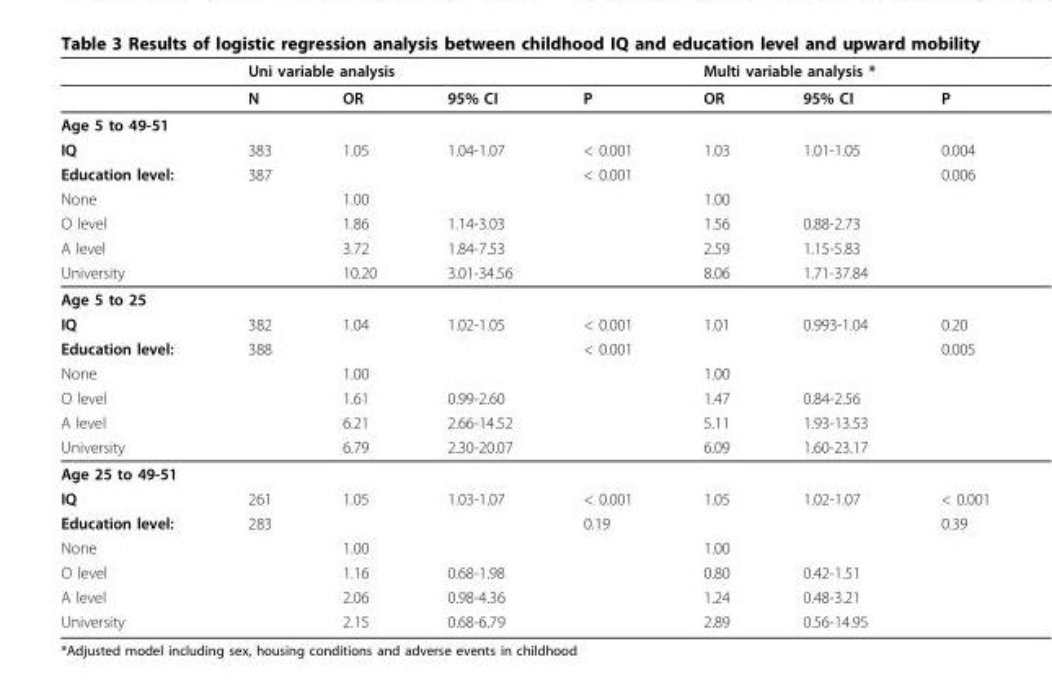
<table><thead><tr><td rowspan="2"></td><td colspan="3">Uni variable analysis</td><td rowspan="2">P</td><td colspan="3">Multi variable analysis *</td></tr><tr><td>N</td><td>OR</td><td>95% CI</td><td>OR</td><td>95% CI</td><td>P</td></tr></thead><tbody><tr><td colspan="8">Age 5 to 49-51</td></tr><tr><td>IQ</td><td>383</td><td>1.05</td><td>1.04-1.07</td><td>&lt; 0.001</td><td>1.03</td><td>1.01-1.05</td><td>0.004</td></tr><tr><td>Education level:</td><td>387</td><td></td><td></td><td>&lt; 0.001</td><td></td><td></td><td>0.006</td></tr><tr><td>None</td><td></td><td>1.00</td><td></td><td></td><td>1.00</td><td></td><td></td></tr><tr><td>O level</td><td></td><td>1.86</td><td>1.14-3.03</td><td></td><td>1.56</td><td>0.88-2.73</td><td></td></tr><tr><td>A level</td><td></td><td>3.72</td><td>1.84-7.53</td><td></td><td>2.59</td><td>1.15-5.83</td><td></td></tr><tr><td>University</td><td></td><td>10.20</td><td>3.01-34.56</td><td></td><td>8.06</td><td>1.71-37.84</td><td></td></tr><tr><td colspan="8">Age 5 to 25</td></tr><tr><td>IQ</td><td>382</td><td>1.04</td><td>1.02-1.05</td><td>&lt; 0.001</td><td>1.01</td><td>0.993-1.04</td><td>0.20</td></tr><tr><td>Education level:</td><td>388</td><td></td><td></td><td>&lt; 0.001</td><td></td><td></td><td>0.005</td></tr><tr><td>None</td><td></td><td>1.00</td><td></td><td></td><td>1.00</td><td></td><td></td></tr><tr><td>O level</td><td></td><td>1.61</td><td>0.99-2.60</td><td></td><td>1.47</td><td>0.84-2.56</td><td></td></tr><tr><td>A level</td><td></td><td>6.21</td><td>2.66-14.52</td><td></td><td>5.11</td><td>1.93-13.53</td><td></td></tr><tr><td>University</td><td></td><td>6.79</td><td>2.30-20.07</td><td></td><td>6.09</td><td>1.60-23.17</td><td></td></tr><tr><td colspan="8">Age 25 to 49-51</td></tr><tr><td>IQ</td><td>261</td><td>1.05</td><td>1.03-1.07</td><td>&lt; 0.001</td><td>1.05</td><td>1.02-1.07</td><td>&lt; 0.001</td></tr><tr><td>Education level:</td><td>283</td><td></td><td></td><td>0.19</td><td></td><td></td><td>0.39</td></tr><tr><td>None</td><td></td><td>1.00</td><td></td><td></td><td>1.00</td><td></td><td></td></tr><tr><td>O level</td><td></td><td>1.16</td><td>0.68-1.98</td><td></td><td>0.80</td><td>0.42-1.51</td><td></td></tr><tr><td>A level</td><td></td><td>2.06</td><td>0.98-4.36</td><td></td><td>1.24</td><td>0.48-3.21</td><td></td></tr><tr><td>University</td><td></td><td>2.15</td><td>0.68-6.79</td><td></td><td>2.89</td><td>0.56-14.95</td><td></td></tr></tbody></table>